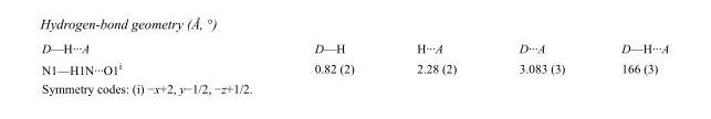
<table><tbody><tr><td>D—H···A</td><td>D—H</td><td>H···A</td><td>D···A</td><td>D—H···A</td></tr><tr><td>N1—H1N···O1<sup>i</sup></td><td>0.82 (2)</td><td>2.28 (2)</td><td>3.083 (3)</td><td>166 (3)</td></tr></tbody></table>